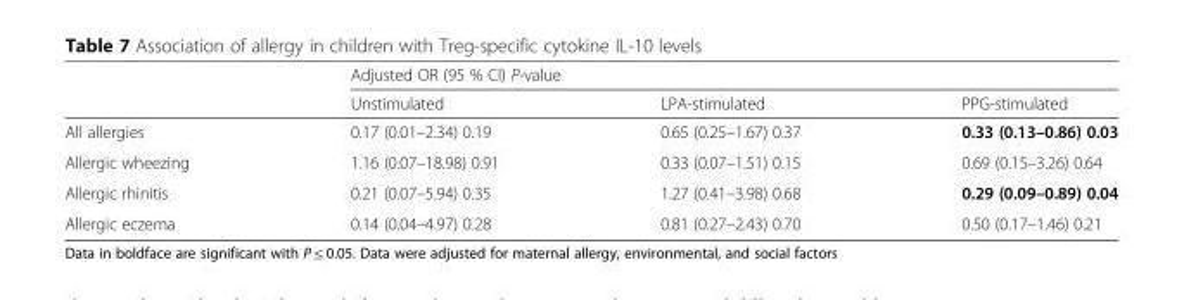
<table><thead><tr><td rowspan="2"></td><td colspan="3">Adjusted OR (95 % CI) P-value</td></tr><tr><td>Unstimulated</td><td>LPA-stimulated</td><td>PPG-stimulated</td></tr></thead><tbody><tr><td>All allergies</td><td>0.17 (0.01–2.34) 0.19</td><td>0.65 (0.25–1.67) 0.37</td><td>0.33 (0.13–0.86) 0.03</td></tr><tr><td>Allergic wheezing</td><td>1.16 (0.07–18.98) 0.91</td><td>0.33 (0.07–1.51) 0.15</td><td>0.69 (0.15–3.26) 0.64</td></tr><tr><td>Allergic rhinitis</td><td>0.21 (0.07–5.94) 0.35</td><td>1.27 (0.41–3.98) 0.68</td><td>0.29 (0.09–0.89) 0.04</td></tr><tr><td>Allergic eczema</td><td>0.14 (0.04–4.97) 0.28</td><td>0.81 (0.27–2.43) 0.70</td><td>0.50 (0.17–1.46) 0.21</td></tr></tbody></table>